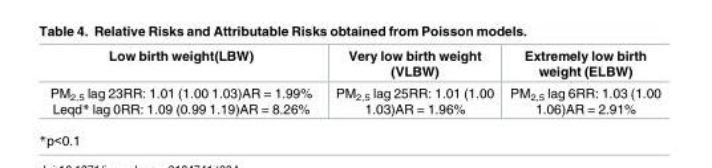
<table><thead><tr><td>Low birth weight(LBW)</td><td>Very low birth weight (VLBW)</td><td>Extremely low birth weight (ELBW)</td></tr></thead><tbody><tr><td>PM<sub>2,5</sub> lag 23RR: 1.01 (1.00 1.03)AR = 1.99% Leqd* lag 0RR: 1.09 (0.99 1.19)AR = 8.26%</td><td>PM<sub>2,5</sub> lag 25RR: 1.01 (1.00 1.03)AR = 1.96%</td><td>PM<sub>2,5</sub> lag 6RR: 1.03 (1.00 1.06)AR = 2.91%</td></tr></tbody></table>